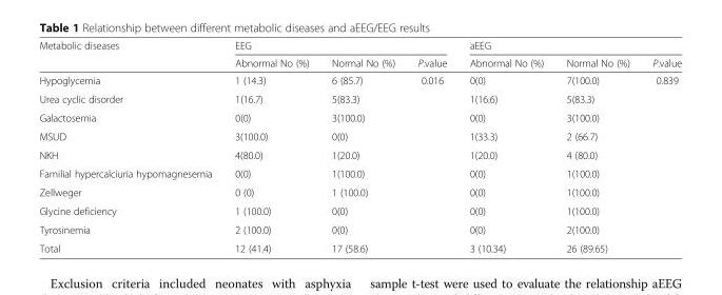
<table><thead><tr><td rowspan="2">Metabolic diseases</td><td colspan="3">EEG</td><td colspan="3">aEEG</td></tr><tr><td>Abnormal No (%)</td><td>Normal No (%)</td><td>P.value</td><td>Abnormal No (%)</td><td>Normal No (%)</td><td>P.value</td></tr></thead><tbody><tr><td>Hypoglycemia</td><td>1 (14.3)</td><td>6 (85.7)</td><td rowspan="9">0.016</td><td>0(0)</td><td>7(100.0)</td><td rowspan="9">0.839</td></tr><tr><td>Urea cyclic disorder</td><td>1(16.7)</td><td>5(83.3)</td><td>1(16.6)</td><td>5(83.3)</td></tr><tr><td>Galactosemia</td><td>0(0)</td><td>3(100.0)</td><td>0(0)</td><td>3(100.0)</td></tr><tr><td>MSUD</td><td>3(100.0)</td><td>0(0)</td><td>1(33.3)</td><td>2 (66.7)</td></tr><tr><td>NKH</td><td>4(80.0)</td><td>1(20.0)</td><td>1(20.0)</td><td>4 (80.0)</td></tr><tr><td>Familial hypercalciuria hypomagnesemia</td><td>0(0)</td><td>1(100.0)</td><td>0(0)</td><td>1(100.0)</td></tr><tr><td>Zellweger</td><td>0 (0)</td><td>1 (100.0)</td><td>0(0)</td><td>1(100.0)</td></tr><tr><td>Glycine deficiency</td><td>1 (100.0)</td><td>0(0)</td><td>0(0)</td><td>1(100.0)</td></tr><tr><td>Tyrosinemia</td><td>2 (100.0)</td><td>0(0)</td><td>0(0)</td><td>2(100.0)</td></tr><tr><td>Total</td><td>12 (41.4)</td><td>17 (58.6)</td><td></td><td>3 (10.34)</td><td>26 (89.65)</td><td></td></tr></tbody></table>